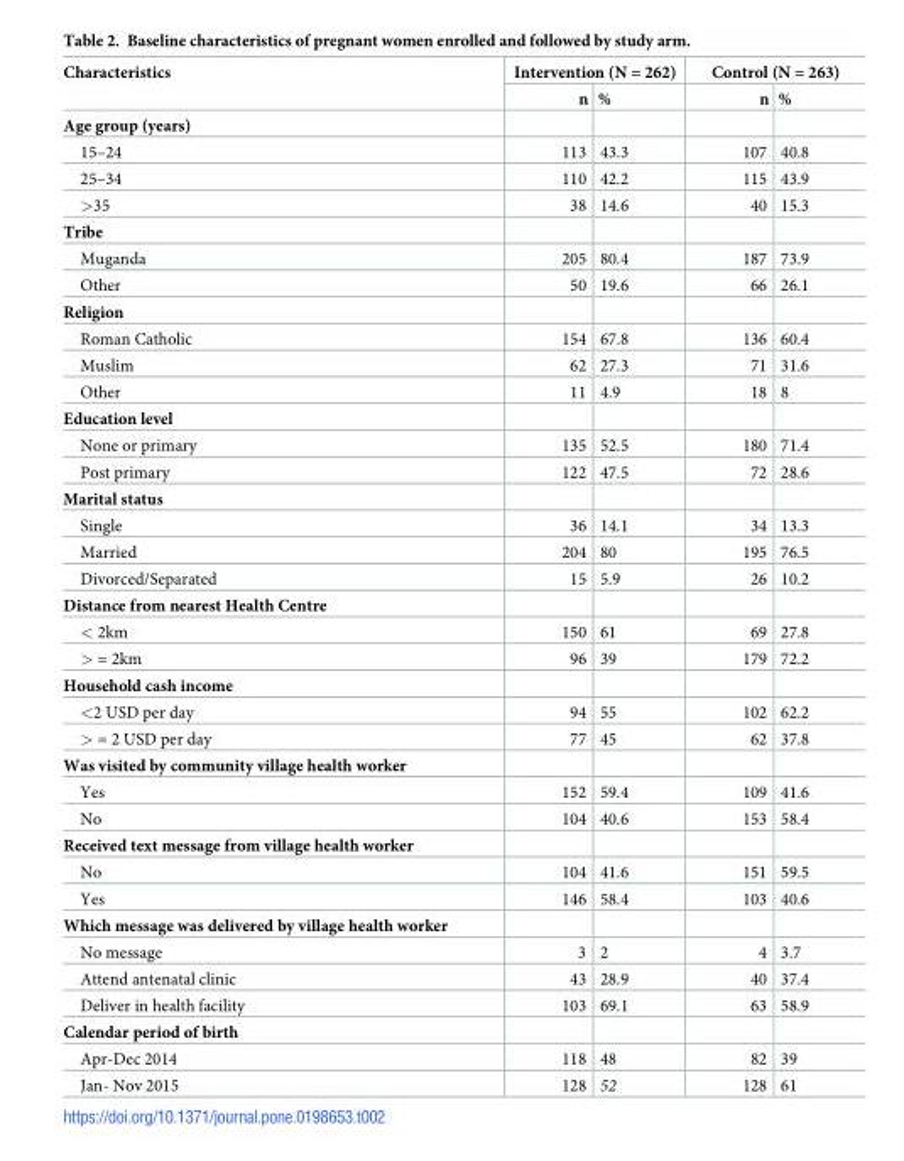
<table><thead><tr><td rowspan="2">Characteristics</td><td colspan="2">Intervention (N = 262)</td><td colspan="2">Control (N = 263)</td></tr><tr><td>n</td><td>%</td><td>n</td><td>%</td></tr></thead><tbody><tr><td colspan="5">Age group (years)</td></tr><tr><td>15–24</td><td>113</td><td>43.3</td><td>107</td><td>40.8</td></tr><tr><td>25–34</td><td>110</td><td>42.2</td><td>115</td><td>43.9</td></tr><tr><td>&gt;35</td><td>38</td><td>14.6</td><td>40</td><td>15.3</td></tr><tr><td colspan="5">Tribe</td></tr><tr><td>Muganda</td><td>205</td><td>80.4</td><td>187</td><td>73.9</td></tr><tr><td>Other</td><td>50</td><td>19.6</td><td>66</td><td>26.1</td></tr><tr><td colspan="5">Religion</td></tr><tr><td>Roman Catholic</td><td>154</td><td>67.8</td><td>136</td><td>60.4</td></tr><tr><td>Muslim</td><td>62</td><td>27.3</td><td>71</td><td>31.6</td></tr><tr><td>Other</td><td>11</td><td>4.9</td><td>18</td><td>8</td></tr><tr><td colspan="5">Education level</td></tr><tr><td>None or primary</td><td>135</td><td>52.5</td><td>180</td><td>71.4</td></tr><tr><td>Post primary</td><td>122</td><td>47.5</td><td>72</td><td>28.6</td></tr><tr><td colspan="5">Marital status</td></tr><tr><td>Single</td><td>36</td><td>14.1</td><td>34</td><td>13.3</td></tr><tr><td>Married</td><td>204</td><td>80</td><td>195</td><td>76.5</td></tr><tr><td>Divorced/Separated</td><td>15</td><td>5.9</td><td>26</td><td>10.2</td></tr><tr><td colspan="5">Distance from nearest Health Centre</td></tr><tr><td>&lt; 2km</td><td>150</td><td>61</td><td>69</td><td>27.8</td></tr><tr><td>&gt; = 2km</td><td>96</td><td>39</td><td>179</td><td>72.2</td></tr><tr><td colspan="5">Household cash income</td></tr><tr><td>&lt;2 USD per day</td><td>94</td><td>55</td><td>102</td><td>62.2</td></tr><tr><td>&gt; = 2 USD per day</td><td>77</td><td>45</td><td>62</td><td>37.8</td></tr><tr><td colspan="5">Was visited by community village health worker</td></tr><tr><td>Yes</td><td>152</td><td>59.4</td><td>109</td><td>41.6</td></tr><tr><td>No</td><td>104</td><td>40.6</td><td>153</td><td>58.4</td></tr><tr><td colspan="5">Received text message from village health worker</td></tr><tr><td>No</td><td>104</td><td>41.6</td><td>151</td><td>59.5</td></tr><tr><td>Yes</td><td>146</td><td>58.4</td><td>103</td><td>40.6</td></tr><tr><td colspan="5">Which message was delivered by village health worker</td></tr><tr><td>No message</td><td>3</td><td>2</td><td>4</td><td>3.7</td></tr><tr><td>Attend antenatal clinic</td><td>43</td><td>28.9</td><td>40</td><td>37.4</td></tr><tr><td>Deliver in health facility</td><td>103</td><td>69.1</td><td>63</td><td>58.9</td></tr><tr><td colspan="5">Calendar period of birth</td></tr><tr><td>Apr-Dec 2014</td><td>118</td><td>48</td><td>82</td><td>39</td></tr><tr><td>Jan- Nov 2015</td><td>128</td><td>52</td><td>128</td><td>61</td></tr></tbody></table>